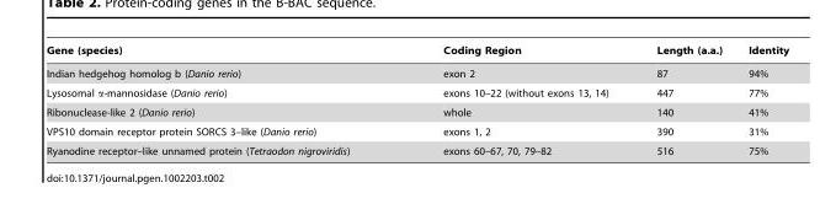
<table><thead><tr><td>Gene (species)</td><td>Coding Region</td><td>Length (a.a.)</td><td>Identity</td></tr></thead><tbody><tr><td>Indian hedgehog homolog b (Danio rerio)</td><td>exon 2</td><td>87</td><td>94%</td></tr><tr><td>Lysosomal α-mannosidase (Danio rerio)</td><td>exons 10–22 (without exons 13, 14)</td><td>447</td><td>77%</td></tr><tr><td>Ribonuclease-like 2 (Danio rerio)</td><td>whole</td><td>140</td><td>41%</td></tr><tr><td>VPS10 domain receptor protein SORCS 3–like (Danio rerio)</td><td>exons 1, 2</td><td>390</td><td>31%</td></tr><tr><td>Ryanodine receptor–like unnamed protein (Tetraodon nigroviridis)</td><td>exons 60–67, 70, 79–82</td><td>516</td><td>75%</td></tr></tbody></table>